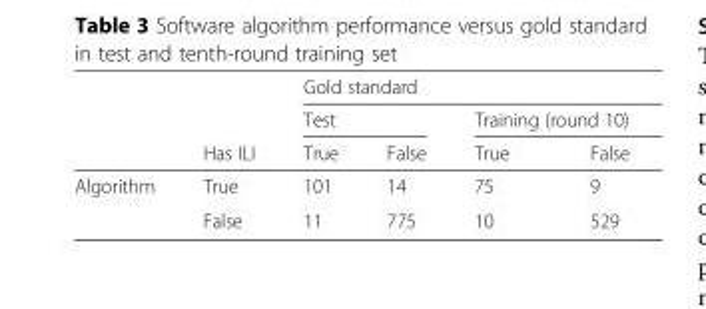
<table><thead><tr><td rowspan="3"></td><td rowspan="3">Has ILI</td><td colspan="4">Gold standard</td></tr><tr><td colspan="2">Test</td><td colspan="2">Training (round 10)</td></tr><tr><td>True</td><td>False</td><td>True</td><td>False</td></tr></thead><tbody><tr><td rowspan="2">Algorithm</td><td>True</td><td>101</td><td>14</td><td>75</td><td>9</td></tr><tr><td>False</td><td>11</td><td>775</td><td>10</td><td>529</td></tr></tbody></table>